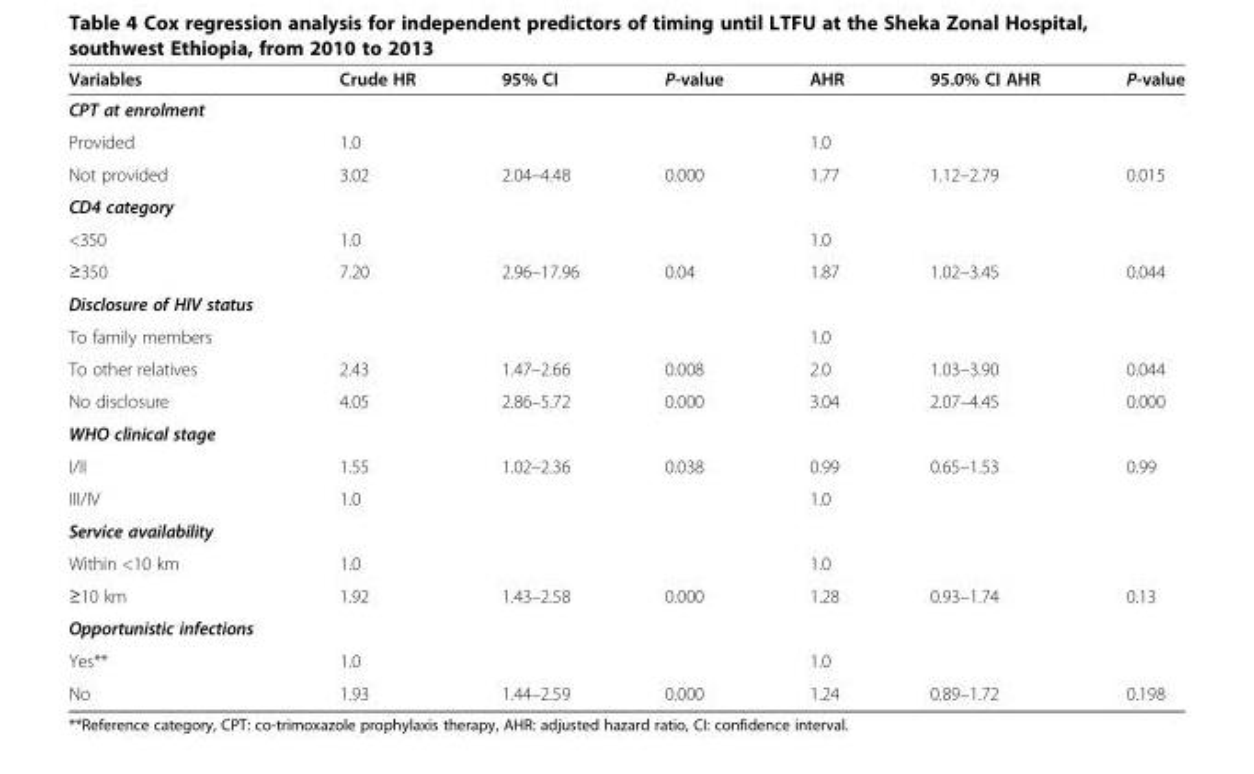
<table><thead><tr><td>Variables</td><td>Crude HR</td><td>95% CI</td><td>P-value</td><td>AHR</td><td>95.0% CI AHR</td><td>P-value</td></tr></thead><tbody><tr><td colspan="7">CPT at enrolment</td></tr><tr><td>Provided</td><td>1.0</td><td></td><td></td><td>1.0</td><td></td><td></td></tr><tr><td>Not provided</td><td>3.02</td><td>2.04–4.48</td><td>0.000</td><td>1.77</td><td>1.12–2.79</td><td>0.015</td></tr><tr><td colspan="7">CD4 category</td></tr><tr><td>&lt;350</td><td>1.0</td><td></td><td></td><td>1.0</td><td></td><td></td></tr><tr><td>≥350</td><td>7.20</td><td>2.96–17.96</td><td>0.04</td><td>1.87</td><td>1.02–3.45</td><td>0.044</td></tr><tr><td colspan="7">Disclosure of HIV status</td></tr><tr><td>To family members</td><td></td><td></td><td></td><td>1.0</td><td></td><td></td></tr><tr><td>To other relatives</td><td>2.43</td><td>1.47–2.66</td><td>0.008</td><td>2.0</td><td>1.03–3.90</td><td>0.044</td></tr><tr><td>No disclosure</td><td>4.05</td><td>2.86–5.72</td><td>0.000</td><td>3.04</td><td>2.07–4.45</td><td>0.000</td></tr><tr><td colspan="7">WHO clinical stage</td></tr><tr><td>I/II</td><td>1.55</td><td>1.02–2.36</td><td>0.038</td><td>0.99</td><td>0.65–1.53</td><td>0.99</td></tr><tr><td>III/IV</td><td>1.0</td><td></td><td></td><td>1.0</td><td></td><td></td></tr><tr><td colspan="7">Service availability</td></tr><tr><td>Within &lt;10 km</td><td>1.0</td><td></td><td></td><td>1.0</td><td></td><td></td></tr><tr><td>≥10 km</td><td>1.92</td><td>1.43–2.58</td><td>0.000</td><td>1.28</td><td>0.93–1.74</td><td>0.13</td></tr><tr><td colspan="7">Opportunistic infections</td></tr><tr><td>Yes**</td><td>1.0</td><td></td><td></td><td>1.0</td><td></td><td></td></tr><tr><td>No</td><td>1.93</td><td>1.44–2.59</td><td>0.000</td><td>1.24</td><td>0.89–1.72</td><td>0.198</td></tr></tbody></table>